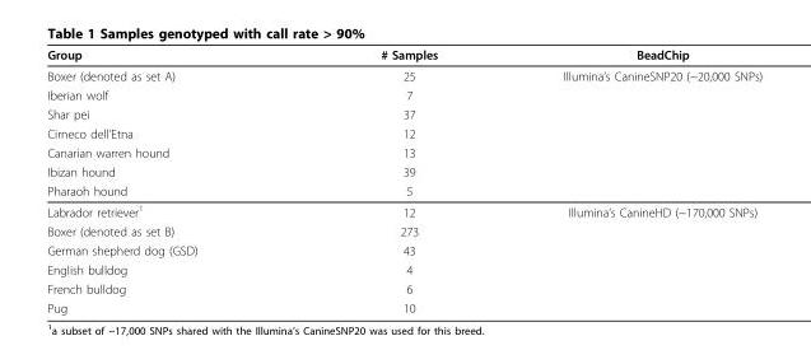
<table><thead><tr><td>Group</td><td># Samples</td><td>BeadChip</td></tr></thead><tbody><tr><td>Boxer (denoted as set A)</td><td>25</td><td>Illumina’s CanineSNP20 (~20,000 SNPs)</td></tr><tr><td>Iberian wolf</td><td>7</td><td></td></tr><tr><td>Shar pei</td><td>37</td><td></td></tr><tr><td>Cirneco dell’Etna</td><td>12</td><td></td></tr><tr><td>Canarian warren hound</td><td>13</td><td></td></tr><tr><td>Ibizan hound</td><td>39</td><td></td></tr><tr><td>Pharaoh hound</td><td>5</td><td></td></tr><tr><td>Labrador retriever<sup>1</sup></td><td>12</td><td>Illumina’s CanineHD (~170,000 SNPs)</td></tr><tr><td>Boxer (denoted as set B)</td><td>273</td><td></td></tr><tr><td>German shepherd dog (GSD)</td><td>43</td><td></td></tr><tr><td>English bulldog</td><td>4</td><td></td></tr><tr><td>French bulldog</td><td>6</td><td></td></tr><tr><td>Pug</td><td>10</td><td></td></tr></tbody></table>